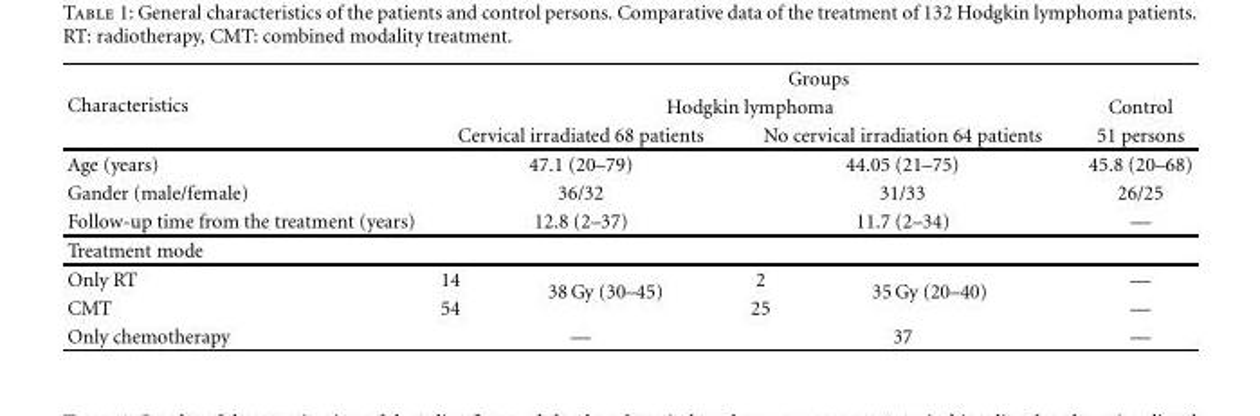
<table><thead><tr><td rowspan="3">Characteristics</td><td colspan="5">Groups</td></tr><tr><td colspan="4">Hodgkin lymphoma</td><td rowspan="2">Control 51 persons</td></tr><tr><td colspan="2">Cervical irradiated 68 patients</td><td colspan="2">No cervical irradiation 64 patients</td></tr></thead><tbody><tr><td>Age (years)</td><td colspan="2">47.1 (20–79)</td><td colspan="2">44.05 (21–75)</td><td>45.8 (20–68)</td></tr><tr><td>Gander (male/female)</td><td colspan="2">36/32</td><td colspan="2">31/33</td><td>26/25</td></tr><tr><td>Follow-up time from the treatment (years)</td><td colspan="2">12.8 (2–37)</td><td colspan="2">11.7 (2–34)</td><td>—</td></tr><tr><td colspan="6">Treatment mode</td></tr><tr><td>Only RT</td><td>14</td><td rowspan="2">38 Gy (30–45)</td><td>2</td><td rowspan="2">35 Gy (20–40)</td><td>—</td></tr><tr><td>CMT</td><td>54</td><td>25</td><td>—</td></tr><tr><td>Only chemotherapy</td><td colspan="2">—</td><td colspan="2">37</td><td>—</td></tr></tbody></table>